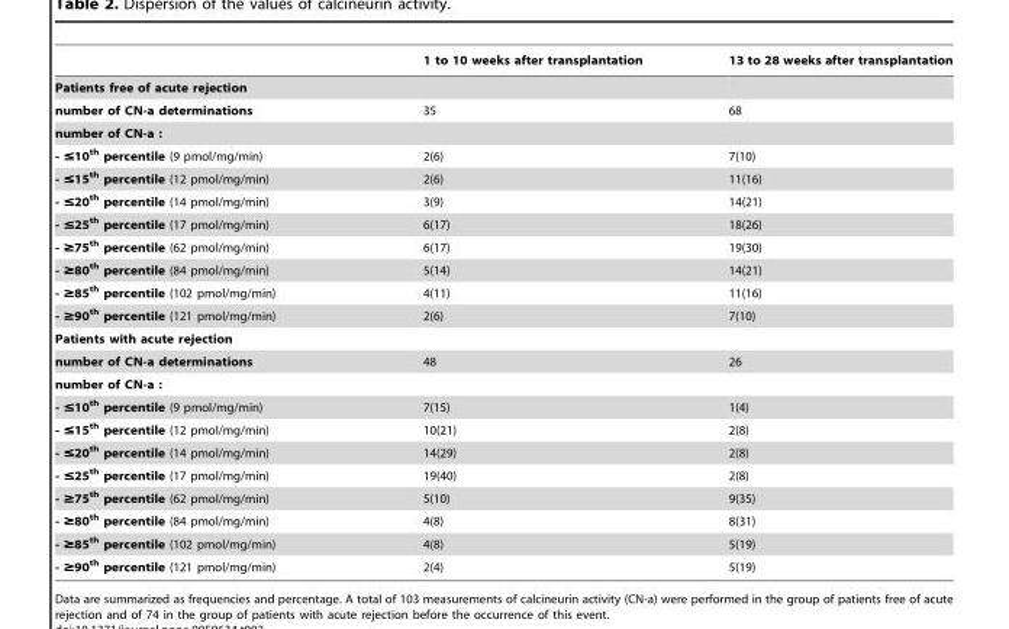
<table><thead><tr><td></td><td>1 to 10 weeks after transplantation</td><td>13 to 28 weeks after transplantation</td></tr></thead><tbody><tr><td colspan="3">Patients free of acute rejection</td></tr><tr><td>number of CN-a determinations</td><td>35</td><td>68</td></tr><tr><td colspan="3">number of CN-a :</td></tr><tr><td>- ≤10<sup>th</sup> percentile (9 pmol/mg/min)</td><td>2(6)</td><td>7(10)</td></tr><tr><td>- ≤15<sup>th</sup> percentile (12 pmol/mg/min)</td><td>2(6)</td><td>11(16)</td></tr><tr><td>- ≤20<sup>th</sup> percentile (14 pmol/mg/min)</td><td>3(9)</td><td>14(21)</td></tr><tr><td>- ≤25<sup>th</sup> percentile (17 pmol/mg/min)</td><td>6(17)</td><td>18(26)</td></tr><tr><td>- ≥75<sup>th</sup> percentile (62 pmol/mg/min)</td><td>6(17)</td><td>19(30)</td></tr><tr><td>- ≥80<sup>th</sup> percentile (84 pmol/mg/min)</td><td>5(14)</td><td>14(21)</td></tr><tr><td>- ≥85<sup>th</sup> percentile (102 pmol/mg/min)</td><td>4(11)</td><td>11(16)</td></tr><tr><td>- ≥90<sup>th</sup> percentile (121 pmol/mg/min)</td><td>2(6)</td><td>7(10)</td></tr><tr><td colspan="3">Patients with acute rejection</td></tr><tr><td>number of CN-a determinations</td><td>48</td><td>26</td></tr><tr><td colspan="3">number of CN-a :</td></tr><tr><td>- ≤10<sup>th</sup> percentile (9 pmol/mg/min)</td><td>7(15)</td><td>1(4)</td></tr><tr><td>- ≤15<sup>th</sup> percentile (12 pmol/mg/min)</td><td>10(21)</td><td>2(8)</td></tr><tr><td>- ≤20<sup>th</sup> percentile (14 pmol/mg/min)</td><td>14(29)</td><td>2(8)</td></tr><tr><td>- ≤25<sup>th</sup> percentile (17 pmol/mg/min)</td><td>19(40)</td><td>2(8)</td></tr><tr><td>- ≥75<sup>th</sup> percentile (62 pmol/mg/min)</td><td>5(10)</td><td>9(35)</td></tr><tr><td>- ≥80<sup>th</sup> percentile (84 pmol/mg/min)</td><td>4(8)</td><td>8(31)</td></tr><tr><td>- ≥85<sup>th</sup> percentile (102 pmol/mg/min)</td><td>4(8)</td><td>5(19)</td></tr><tr><td>- ≥90<sup>th</sup> percentile (121 pmol/mg/min)</td><td>2(4)</td><td>5(19)</td></tr></tbody></table>